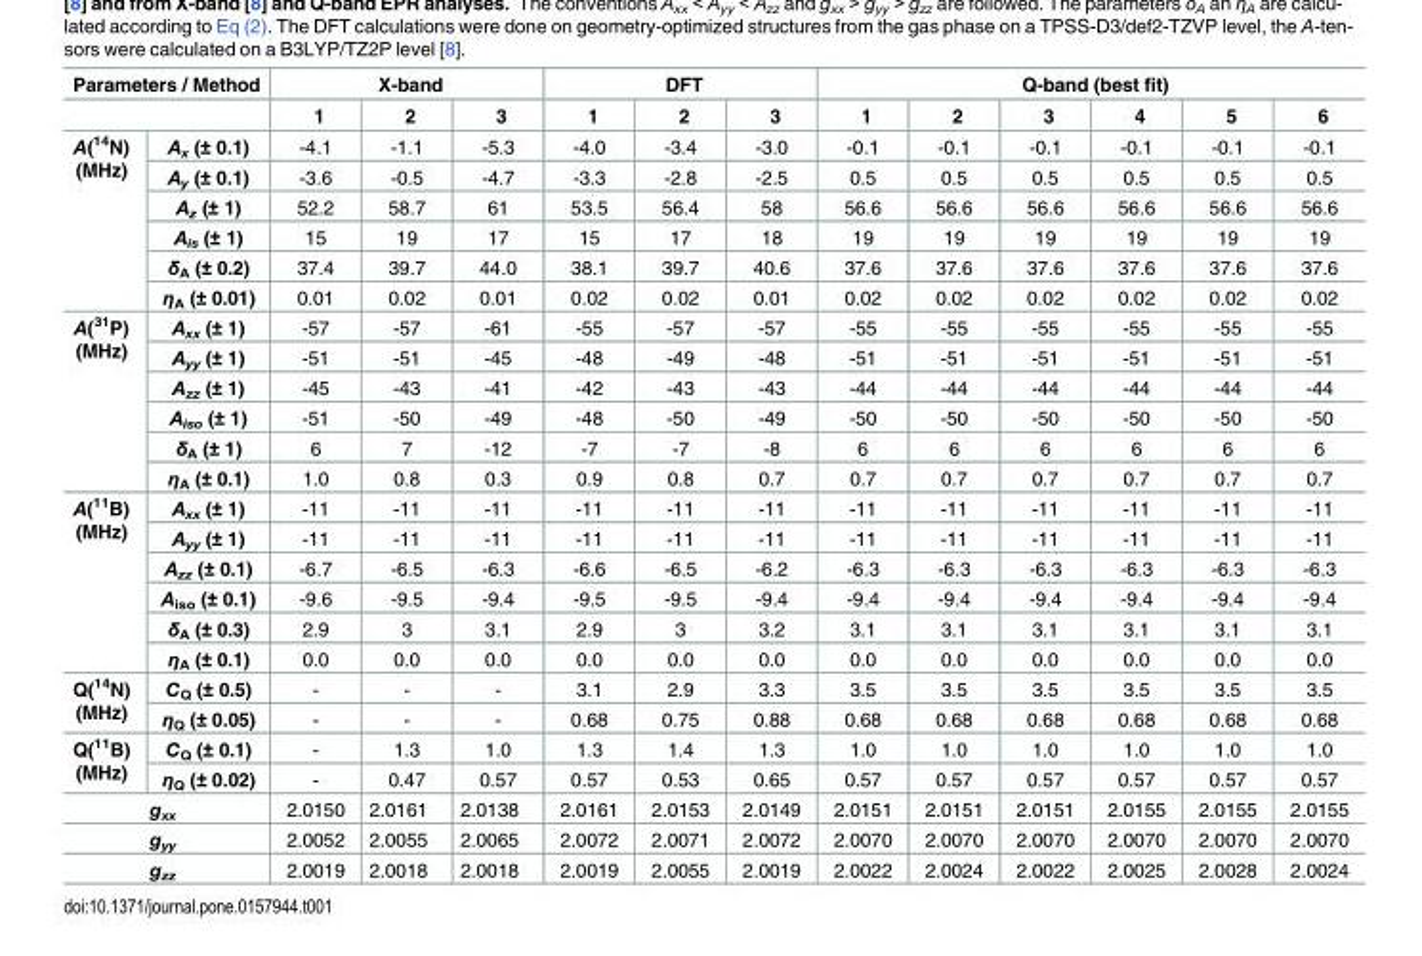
<table><thead><tr><td colspan="2">Parameters / Method</td><td colspan="3">X-band</td><td colspan="3">DFT</td><td colspan="6">Q-band (best fit)</td></tr><tr><td></td><td></td><td>1</td><td>2</td><td>3</td><td>1</td><td>2</td><td>3</td><td>1</td><td>2</td><td>3</td><td>4</td><td>5</td><td>6</td></tr></thead><tbody><tr><td rowspan="6">A(<sup>14</sup>N) (MHz)</td><td>A<sub>x</sub> (± 0.1)</td><td>-4.1</td><td>-1.1</td><td>-5.3</td><td>-4.0</td><td>-3.4</td><td>-3.0</td><td>-0.1</td><td>-0.1</td><td>-0.1</td><td>-0.1</td><td>-0.1</td><td>-0.1</td></tr><tr><td>A<sub>y</sub> (± 0.1)</td><td>-3.6</td><td>-0.5</td><td>-4.7</td><td>-3.3</td><td>-2.8</td><td>-2.5</td><td>0.5</td><td>0.5</td><td>0.5</td><td>0.5</td><td>0.5</td><td>0.5</td></tr><tr><td>A<sub>z</sub> (± 1)</td><td>52.2</td><td>58.7</td><td>61</td><td>53.5</td><td>56.4</td><td>58</td><td>56.6</td><td>56.6</td><td>56.6</td><td>56.6</td><td>56.6</td><td>56.6</td></tr><tr><td>A<sub>is</sub> (± 1)</td><td>15</td><td>19</td><td>17</td><td>15</td><td>17</td><td>18</td><td>19</td><td>19</td><td>19</td><td>19</td><td>19</td><td>19</td></tr><tr><td>δ<sub>A</sub> (± 0.2)</td><td>37.4</td><td>39.7</td><td>44.0</td><td>38.1</td><td>39.7</td><td>40.6</td><td>37.6</td><td>37.6</td><td>37.6</td><td>37.6</td><td>37.6</td><td>37.6</td></tr><tr><td>η<sub>A</sub> (± 0.01)</td><td>0.01</td><td>0.02</td><td>0.01</td><td>0.02</td><td>0.02</td><td>0.01</td><td>0.02</td><td>0.02</td><td>0.02</td><td>0.02</td><td>0.02</td><td>0.02</td></tr><tr><td rowspan="6">A(<sup>31</sup>P) (MHz)</td><td>A<sub>xx</sub> (± 1)</td><td>-57</td><td>-57</td><td>-61</td><td>-55</td><td>-57</td><td>-57</td><td>-55</td><td>-55</td><td>-55</td><td>-55</td><td>-55</td><td>-55</td></tr><tr><td>A<sub>yy</sub> (± 1)</td><td>-51</td><td>-51</td><td>-45</td><td>-48</td><td>-49</td><td>-48</td><td>-51</td><td>-51</td><td>-51</td><td>-51</td><td>-51</td><td>-51</td></tr><tr><td>A<sub>zz</sub> (± 1)</td><td>-45</td><td>-43</td><td>-41</td><td>-42</td><td>-43</td><td>-43</td><td>-44</td><td>-44</td><td>-44</td><td>-44</td><td>-44</td><td>-44</td></tr><tr><td>A<sub>iso</sub> (± 1)</td><td>-51</td><td>-50</td><td>-49</td><td>-48</td><td>-50</td><td>-49</td><td>-50</td><td>-50</td><td>-50</td><td>-50</td><td>-50</td><td>-50</td></tr><tr><td>δ<sub>A</sub> (± 1)</td><td>6</td><td>7</td><td>-12</td><td>-7</td><td>-7</td><td>-8</td><td>6</td><td>6</td><td>6</td><td>6</td><td>6</td><td>6</td></tr><tr><td>η<sub>A</sub> (± 0.1)</td><td>1.0</td><td>0.8</td><td>0.3</td><td>0.9</td><td>0.8</td><td>0.7</td><td>0.7</td><td>0.7</td><td>0.7</td><td>0.7</td><td>0.7</td><td>0.7</td></tr><tr><td rowspan="6">A(<sup>11</sup>B) (MHz)</td><td>A<sub>xx</sub> (± 1)</td><td>-11</td><td>-11</td><td>-11</td><td>-11</td><td>-11</td><td>-11</td><td>-11</td><td>-11</td><td>-11</td><td>-11</td><td>-11</td><td>-11</td></tr><tr><td>A<sub>yy</sub> (± 1)</td><td>-11</td><td>-11</td><td>-11</td><td>-11</td><td>-11</td><td>-11</td><td>-11</td><td>-11</td><td>-11</td><td>-11</td><td>-11</td><td>-11</td></tr><tr><td>A<sub>zz</sub> (± 0.1)</td><td>-6.7</td><td>-6.5</td><td>-6.3</td><td>-6.6</td><td>-6.5</td><td>-6.2</td><td>-6.3</td><td>-6.3</td><td>-6.3</td><td>-6.3</td><td>-6.3</td><td>-6.3</td></tr><tr><td>A<sub>iso</sub> (± 0.1)</td><td>-9.6</td><td>-9.5</td><td>-9.4</td><td>-9.5</td><td>-9.5</td><td>-9.4</td><td>-9.4</td><td>-9.4</td><td>-9.4</td><td>-9.4</td><td>-9.4</td><td>-9.4</td></tr><tr><td>δ<sub>A</sub> (± 0.3)</td><td>2.9</td><td>3</td><td>3.1</td><td>2.9</td><td>3</td><td>3.2</td><td>3.1</td><td>3.1</td><td>3.1</td><td>3.1</td><td>3.1</td><td>3.1</td></tr><tr><td>η<sub>A</sub> (± 0.1)</td><td>0.0</td><td>0.0</td><td>0.0</td><td>0.0</td><td>0.0</td><td>0.0</td><td>0.0</td><td>0.0</td><td>0.0</td><td>0.0</td><td>0.0</td><td>0.0</td></tr><tr><td rowspan="2">Q(<sup>14</sup>N) (MHz)</td><td>C<sub>Q</sub> (± 0.5)</td><td>-</td><td>-</td><td>-</td><td>3.1</td><td>2.9</td><td>3.3</td><td>3.5</td><td>3.5</td><td>3.5</td><td>3.5</td><td>3.5</td><td>3.5</td></tr><tr><td>η<sub>Q</sub> (± 0.05)</td><td>-</td><td>-</td><td>-</td><td>0.68</td><td>0.75</td><td>0.88</td><td>0.68</td><td>0.68</td><td>0.68</td><td>0.68</td><td>0.68</td><td>0.68</td></tr><tr><td rowspan="2">Q(<sup>11</sup>B) (MHz)</td><td>C<sub>Q</sub> (± 0.1)</td><td>-</td><td>1.3</td><td>1.0</td><td>1.3</td><td>1.4</td><td>1.3</td><td>1.0</td><td>1.0</td><td>1.0</td><td>1.0</td><td>1.0</td><td>1.0</td></tr><tr><td>η<sub>Q</sub> (± 0.02)</td><td>-</td><td>0.47</td><td>0.57</td><td>0.57</td><td>0.53</td><td>0.65</td><td>0.57</td><td>0.57</td><td>0.57</td><td>0.57</td><td>0.57</td><td>0.57</td></tr><tr><td colspan="2">g<sub>xx</sub></td><td>2.0150</td><td>2.0161</td><td>2.0138</td><td>2.0161</td><td>2.0153</td><td>2.0149</td><td>2.0151</td><td>2.0151</td><td>2.0151</td><td>2.0155</td><td>2.0155</td><td>2.0155</td></tr><tr><td colspan="2">g<sub>yy</sub></td><td>2.0052</td><td>2.0055</td><td>2.0065</td><td>2.0072</td><td>2.0071</td><td>2.0072</td><td>2.0070</td><td>2.0070</td><td>2.0070</td><td>2.0070</td><td>2.0070</td><td>2.0070</td></tr><tr><td colspan="2">g<sub>zz</sub></td><td>2.0019</td><td>2.0018</td><td>2.0018</td><td>2.0019</td><td>2.0055</td><td>2.0019</td><td>2.0022</td><td>2.0024</td><td>2.0022</td><td>2.0025</td><td>2.0028</td><td>2.0024</td></tr></tbody></table>